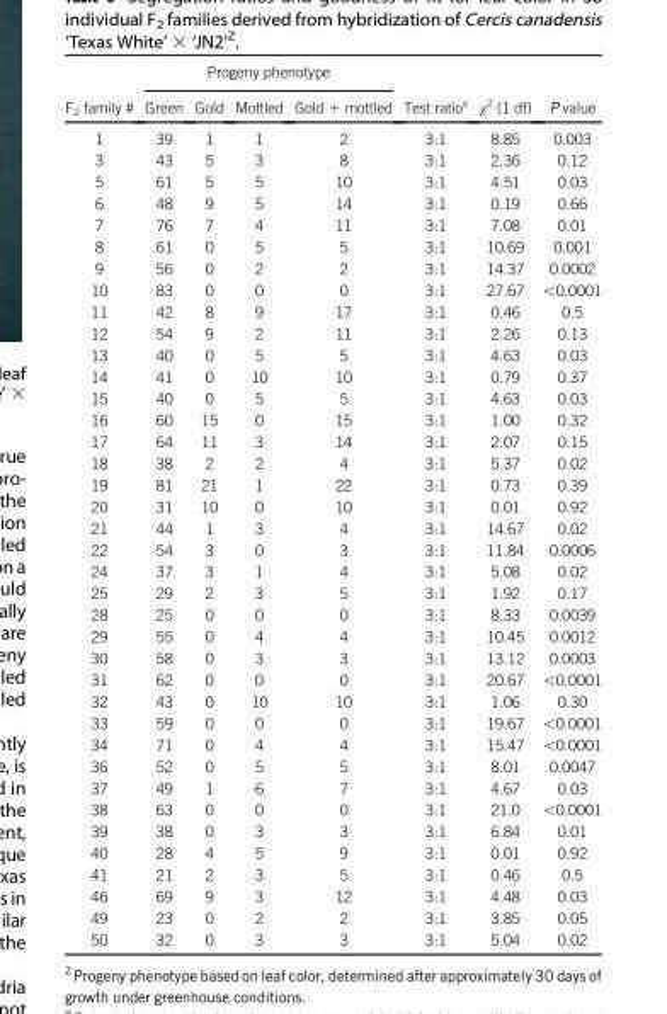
<table><thead><tr><td rowspan="2">F<sub>2</sub> family #</td><td colspan="4">Progeny phenotype</td><td rowspan="2">Test ratio<sup>y</sup></td><td rowspan="2">χ<sup>2</sup> (1 df)</td><td rowspan="2">P value</td></tr><tr><td>Green</td><td>Gold</td><td>Mottled</td><td>Gold + mottled</td></tr></thead><tbody><tr><td>1</td><td>39</td><td>1</td><td>1</td><td>2</td><td>3:1</td><td>8.85</td><td>0.003</td></tr><tr><td>3</td><td>43</td><td>5</td><td>3</td><td>8</td><td>3:1</td><td>2.36</td><td>0.12</td></tr><tr><td>5</td><td>61</td><td>5</td><td>5</td><td>10</td><td>3:1</td><td>4.51</td><td>0.03</td></tr><tr><td>6</td><td>48</td><td>9</td><td>5</td><td>14</td><td>3:1</td><td>0.19</td><td>0.66</td></tr><tr><td>7</td><td>76</td><td>7</td><td>4</td><td>11</td><td>3:1</td><td>7.08</td><td>0.01</td></tr><tr><td>8</td><td>61</td><td>0</td><td>5</td><td>5</td><td>3:1</td><td>10.69</td><td>0.001</td></tr><tr><td>9</td><td>56</td><td>0</td><td>2</td><td>2</td><td>3:1</td><td>14.37</td><td>0.0002</td></tr><tr><td>10</td><td>83</td><td>0</td><td>0</td><td>0</td><td>3:1</td><td>27.67</td><td>&lt;0.0001</td></tr><tr><td>11</td><td>42</td><td>8</td><td>9</td><td>17</td><td>3:1</td><td>0.46</td><td>0.5</td></tr><tr><td>12</td><td>54</td><td>9</td><td>2</td><td>11</td><td>3:1</td><td>2.26</td><td>0.13</td></tr><tr><td>13</td><td>40</td><td>0</td><td>5</td><td>5</td><td>3:1</td><td>4.63</td><td>0.03</td></tr><tr><td>14</td><td>41</td><td>0</td><td>10</td><td>10</td><td>3:1</td><td>0.79</td><td>0.37</td></tr><tr><td>15</td><td>40</td><td>0</td><td>5</td><td>5</td><td>3:1</td><td>4.63</td><td>0.03</td></tr><tr><td>16</td><td>60</td><td>15</td><td>0</td><td>15</td><td>3:1</td><td>1.00</td><td>0.32</td></tr><tr><td>17</td><td>64</td><td>11</td><td>3</td><td>14</td><td>3:1</td><td>2.07</td><td>0.15</td></tr><tr><td>18</td><td>38</td><td>2</td><td>2</td><td>4</td><td>3:1</td><td>5.37</td><td>0.02</td></tr><tr><td>19</td><td>81</td><td>21</td><td>1</td><td>22</td><td>3:1</td><td>0.73</td><td>0.39</td></tr><tr><td>20</td><td>31</td><td>10</td><td>0</td><td>10</td><td>3:1</td><td>0.01</td><td>0.92</td></tr><tr><td>21</td><td>44</td><td>1</td><td>3</td><td>4</td><td>3:1</td><td>14.67</td><td>0.02</td></tr><tr><td>22</td><td>54</td><td>3</td><td>0</td><td>3</td><td>3:1</td><td>11.84</td><td>0.0006</td></tr><tr><td>24</td><td>37</td><td>3</td><td>1</td><td>4</td><td>3:1</td><td>5.08</td><td>0.02</td></tr><tr><td>25</td><td>29</td><td>2</td><td>3</td><td>5</td><td>3:1</td><td>1.92</td><td>0.17</td></tr><tr><td>28</td><td>25</td><td>0</td><td>0</td><td>0</td><td>3:1</td><td>8.33</td><td>0.0039</td></tr><tr><td>29</td><td>55</td><td>0</td><td>4</td><td>4</td><td>3:1</td><td>10.45</td><td>0.0012</td></tr><tr><td>30</td><td>58</td><td>0</td><td>3</td><td>3</td><td>3:1</td><td>13.12</td><td>0.0003</td></tr><tr><td>31</td><td>62</td><td>0</td><td>0</td><td>0</td><td>3:1</td><td>20.67</td><td>&lt;0.0001</td></tr><tr><td>32</td><td>43</td><td>0</td><td>10</td><td>10</td><td>3:1</td><td>1.06</td><td>0.30</td></tr><tr><td>33</td><td>59</td><td>0</td><td>0</td><td>0</td><td>3:1</td><td>19.67</td><td>&lt;0.0001</td></tr><tr><td>34</td><td>71</td><td>0</td><td>4</td><td>4</td><td>3:1</td><td>15.47</td><td>&lt;0.0001</td></tr><tr><td>36</td><td>52</td><td>0</td><td>5</td><td>5</td><td>3:1</td><td>8.01</td><td>0.0047</td></tr><tr><td>37</td><td>49</td><td>1</td><td>6</td><td>7</td><td>3:1</td><td>4.67</td><td>0.03</td></tr><tr><td>38</td><td>63</td><td>0</td><td>0</td><td>0</td><td>3:1</td><td>21.0</td><td>&lt;0.0001</td></tr><tr><td>39</td><td>38</td><td>0</td><td>3</td><td>3</td><td>3:1</td><td>6.84</td><td>0.01</td></tr><tr><td>40</td><td>28</td><td>4</td><td>5</td><td>9</td><td>3:1</td><td>0.01</td><td>0.92</td></tr><tr><td>41</td><td>21</td><td>2</td><td>3</td><td>5</td><td>3:1</td><td>0.46</td><td>0.5</td></tr><tr><td>46</td><td>69</td><td>9</td><td>3</td><td>12</td><td>3:1</td><td>4.48</td><td>0.03</td></tr><tr><td>49</td><td>23</td><td>0</td><td>2</td><td>2</td><td>3:1</td><td>3.85</td><td>0.05</td></tr><tr><td>50</td><td>32</td><td>0</td><td>3</td><td>3</td><td>3:1</td><td>5.04</td><td>0.02</td></tr></tbody></table>